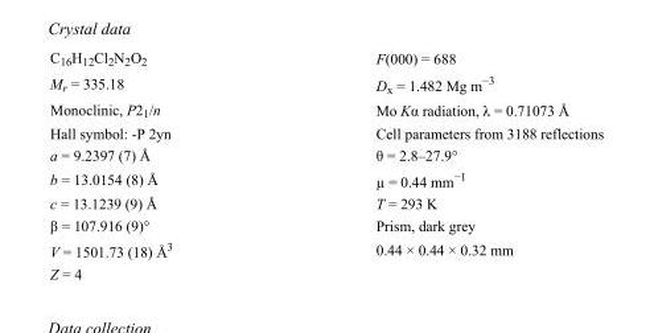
<table><tbody><tr><td>C<sub>16</sub>H<sub>12</sub>Cl<sub>2</sub>N<sub>2</sub>O<sub>2</sub></td><td>F(000) = 688</td></tr><tr><td>M<sub>r</sub> = 335.18</td><td>D<sub>x</sub> = 1.482 Mg m<sup>−3</sup></td></tr><tr><td>Monoclinic, P2<sub>1</sub>/n</td><td>Mo Kα radiation, λ = 0.71073 Å</td></tr><tr><td>Hall symbol: -P 2yn</td><td>Cell parameters from 3188 reflections</td></tr><tr><td>a = 9.2397 (7) Å</td><td>θ = 2.8–27.9°</td></tr><tr><td>b = 13.0154 (8) Å</td><td>µ = 0.44 mm<sup>−1</sup></td></tr><tr><td>c = 13.1239 (9) Å</td><td>T = 293 K</td></tr><tr><td>β = 107.916 (9)°</td><td>Prism, dark grey</td></tr><tr><td>V = 1501.73 (18) Å<sup>3</sup></td><td>0.44 × 0.44 × 0.32 mm</td></tr><tr><td>Z = 4</td><td></td></tr></tbody></table>